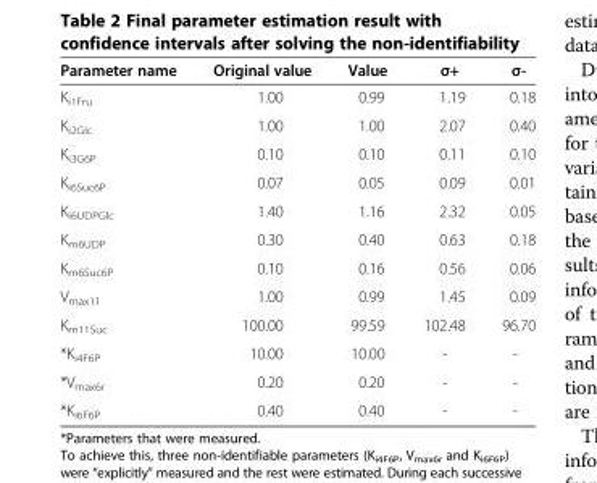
<table><thead><tr><td>Parameter name</td><td>Original value</td><td>Value</td><td>σ+</td><td>σ-</td></tr></thead><tbody><tr><td>K<sub>i1Fru</sub></td><td>1.00</td><td>0.99</td><td>1.19</td><td>0.18</td></tr><tr><td>K<sub>i2Glc</sub></td><td>1.00</td><td>1.00</td><td>2.07</td><td>0.40</td></tr><tr><td>K<sub>i3G6P</sub></td><td>0.10</td><td>0.10</td><td>0.11</td><td>0.10</td></tr><tr><td>K<sub>i6Suc6P</sub></td><td>0.07</td><td>0.05</td><td>0.09</td><td>0.01</td></tr><tr><td>K<sub>i6UDPGlc</sub></td><td>1.40</td><td>1.16</td><td>2.32</td><td>0.05</td></tr><tr><td>K<sub>m6UDP</sub></td><td>0.30</td><td>0.40</td><td>0.63</td><td>0.18</td></tr><tr><td>K<sub>m6Suc6P</sub></td><td>0.10</td><td>0.16</td><td>0.56</td><td>0.06</td></tr><tr><td>V<sub>max11</sub></td><td>1.00</td><td>0.99</td><td>1.45</td><td>0.09</td></tr><tr><td>K<sub>m11Suc</sub></td><td>100.00</td><td>99.59</td><td>102.48</td><td>96.70</td></tr><tr><td>*K<sub>i4F6P</sub></td><td>10.00</td><td>10.00</td><td>-</td><td>-</td></tr><tr><td>*V<sub>max6r</sub></td><td>0.20</td><td>0.20</td><td>-</td><td>-</td></tr><tr><td>*K<sub>i6F6P</sub></td><td>0.40</td><td>0.40</td><td>-</td><td>-</td></tr></tbody></table>